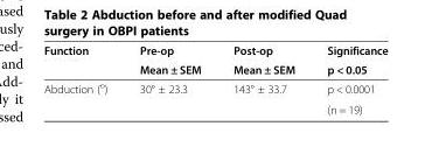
<table><thead><tr><td rowspan="2">Function</td><td rowspan="2">Pre-op Mean ± SEM</td><td rowspan="2">Post-op Mean ± SEM</td><td rowspan="2">Significance p &lt; 0.05</td></tr><tr></tr></thead><tbody><tr><td rowspan="2">Abduction (<sup>o</sup>)</td><td rowspan="2">30° ± 23.3</td><td rowspan="2">143° ± 33.7</td><td>p &lt; 0.0001</td></tr><tr><td>(n = 19)</td></tr></tbody></table>